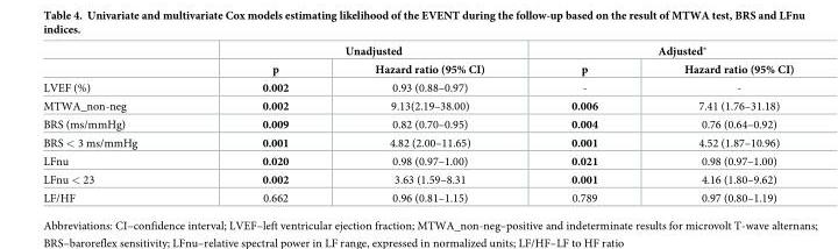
<table><thead><tr><td rowspan="2"></td><td colspan="2">Unadjusted</td><td colspan="2">Adjusted*</td></tr><tr><td>p</td><td>Hazard ratio (95% CI)</td><td>p</td><td>Hazard ratio (95% CI)</td></tr></thead><tbody><tr><td>LVEF (%)</td><td>0.002</td><td>0.93 (0.88–0.97)</td><td>-</td><td>-</td></tr><tr><td>MTWA_non-neg</td><td>0.002</td><td>9.13(2.19–38.00)</td><td>0.006</td><td>7.41 (1.76–31.18)</td></tr><tr><td>BRS (ms/mmHg)</td><td>0.009</td><td>0.82 (0.70–0.95)</td><td>0.004</td><td>0.76 (0.64–0.92)</td></tr><tr><td>BRS &lt; 3 ms/mmHg</td><td>0.001</td><td>4.82 (2.00–11.65)</td><td>0.001</td><td>4.52 (1.87–10.96)</td></tr><tr><td>LFnu</td><td>0.020</td><td>0.98 (0.97–1.00)</td><td>0.021</td><td>0.98 (0.97–1.00)</td></tr><tr><td>LFnu &lt; 23</td><td>0.002</td><td>3.63 (1.59–8.31</td><td>0.001</td><td>4.16 (1.80–9.62)</td></tr><tr><td>LF/HF</td><td>0.662</td><td>0.96 (0.81–1.15)</td><td>0.789</td><td>0.97 (0.80–1.19)</td></tr></tbody></table>